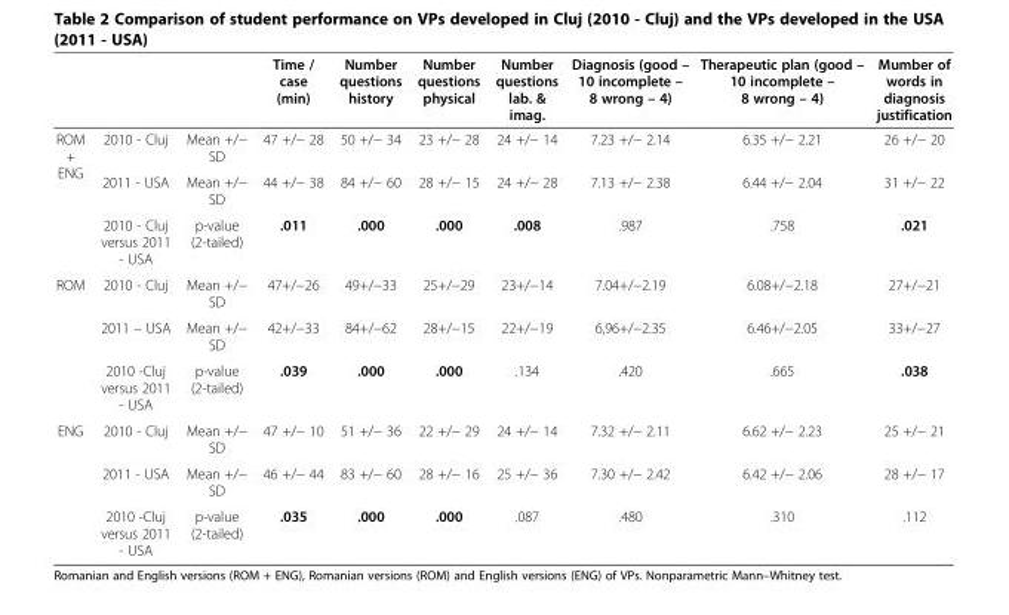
<table><thead><tr><td></td><td></td><td></td><td>Time / case (min)</td><td>Number questions history</td><td>Number questions physical</td><td>Number questions lab. &amp; imag.</td><td>Diagnosis (good – 10 incomplete – 8 wrong – 4)</td><td>Therapeutic plan (good – 10 incomplete – 8 wrong – 4)</td><td>Mumber of words in diagnosis justification</td></tr></thead><tbody><tr><td rowspan="3">ROM + ENG</td><td>2010 - Cluj</td><td>Mean +/− SD</td><td>47 +/− 28</td><td>50 +/− 34</td><td>23 +/− 28</td><td>24 +/− 14</td><td>7.23 +/− 2.14</td><td>6.35 +/− 2.21</td><td>26 +/− 20</td></tr><tr><td>2011 - USA</td><td>Mean +/− SD</td><td>44 +/− 38</td><td>84 +/− 60</td><td>28 +/− 15</td><td>24 +/− 28</td><td>7.13 +/− 2.38</td><td>6.44 +/− 2.04</td><td>31 +/− 22</td></tr><tr><td>2010 - Cluj versus 2011 - USA</td><td>p-value (2-tailed)</td><td>.011</td><td>.000</td><td>.000</td><td>.008</td><td>.987</td><td>.758</td><td>.021</td></tr><tr><td rowspan="3">ROM</td><td>2010 - Cluj</td><td>Mean +/− SD</td><td>47+/−26</td><td>49+/−33</td><td>25+/−29</td><td>23+/−14</td><td>7.04+/−2.19</td><td>6.08+/−2.18</td><td>27+/−21</td></tr><tr><td>2011 – USA</td><td>Mean +/− SD</td><td>42+/−33</td><td>84+/−62</td><td>28+/−15</td><td>22+/−19</td><td>6,96+/−2.35</td><td>6.46+/−2.05</td><td>33+/−27</td></tr><tr><td>2010 -Cluj versus 2011 - USA</td><td>p-value (2-tailed)</td><td>.039</td><td>.000</td><td>.000</td><td>.134</td><td>.420</td><td>.665</td><td>.038</td></tr><tr><td rowspan="3">ENG</td><td>2010 - Cluj</td><td>Mean +/− SD</td><td>47 +/− 10</td><td>51 +/− 36</td><td>22 +/− 29</td><td>24 +/− 14</td><td>7.32 +/− 2.11</td><td>6.62 +/− 2.23</td><td>25 +/− 21</td></tr><tr><td>2011 - USA</td><td>Mean +/− SD</td><td>46 +/− 44</td><td>83 +/− 60</td><td>28 +/− 16</td><td>25 +/− 36</td><td>7.30 +/− 2.42</td><td>6.42 +/− 2.06</td><td>28 +/− 17</td></tr><tr><td>2010 -Cluj versus 2011 - USA</td><td>p-value (2-tailed)</td><td>.035</td><td>.000</td><td>.000</td><td>.087</td><td>.480</td><td>.310</td><td>.112</td></tr></tbody></table>